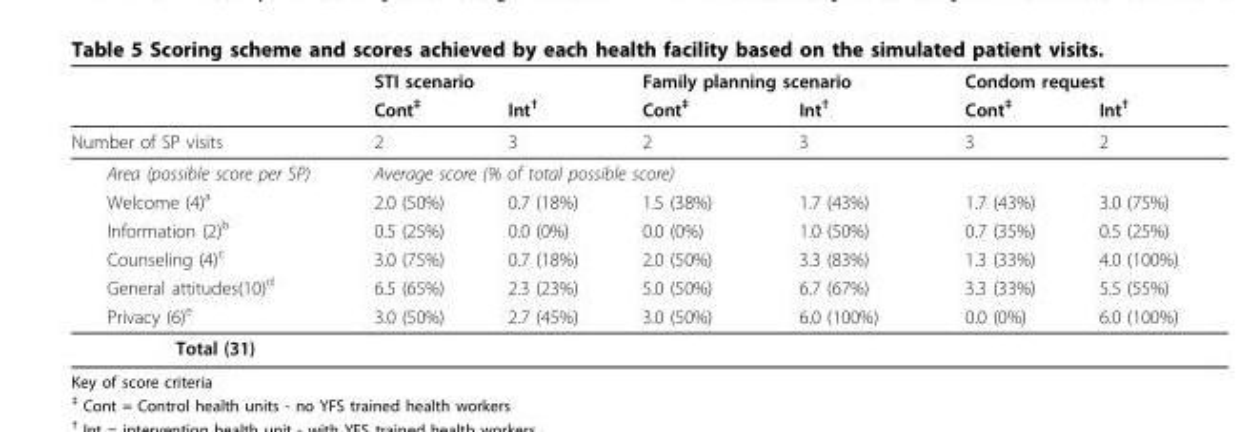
<table><thead><tr><td rowspan="2"></td><td colspan="2">STI scenario</td><td colspan="2">Family planning scenario</td><td colspan="2">Condom request</td></tr><tr><td>Cont<sup>‡</sup></td><td>Int<sup>†</sup></td><td>Cont<sup>‡</sup></td><td>Int<sup>†</sup></td><td>Cont<sup>‡</sup></td><td>Int<sup>†</sup></td></tr></thead><tbody><tr><td>Number of SP visits</td><td>2</td><td>3</td><td>2</td><td>3</td><td>3</td><td>2</td></tr><tr><td>Area (possible score per SP)</td><td colspan="6">Average score (% of total possible score)</td></tr><tr><td>Welcome (4)<sup>a</sup></td><td>2.0 (50%)</td><td>0.7 (18%)</td><td>1.5 (38%)</td><td>1.7 (43%)</td><td>1.7 (43%)</td><td>3.0 (75%)</td></tr><tr><td>Information (2)<sup>b</sup></td><td>0.5 (25%)</td><td>0.0 (0%)</td><td>0.0 (0%)</td><td>1.0 (50%)</td><td>0.7 (35%)</td><td>0.5 (25%)</td></tr><tr><td>Counseling (4)<sup>c</sup></td><td>3.0 (75%)</td><td>0.7 (18%)</td><td>2.0 (50%)</td><td>3.3 (83%)</td><td>1.3 (33%)</td><td>4.0 (100%)</td></tr><tr><td>General attitudes(10)<sup>d</sup></td><td>6.5 (65%)</td><td>2.3 (23%)</td><td>5.0 (50%)</td><td>6.7 (67%)</td><td>3.3 (33%)</td><td>5.5 (55%)</td></tr><tr><td>Privacy (6)<sup>e</sup></td><td>3.0 (50%)</td><td>2.7 (45%)</td><td>3.0 (50%)</td><td>6.0 (100%)</td><td>0.0 (0%)</td><td>6.0 (100%)</td></tr><tr><td>Total (31)</td><td></td><td></td><td></td><td></td><td></td><td></td></tr></tbody></table>